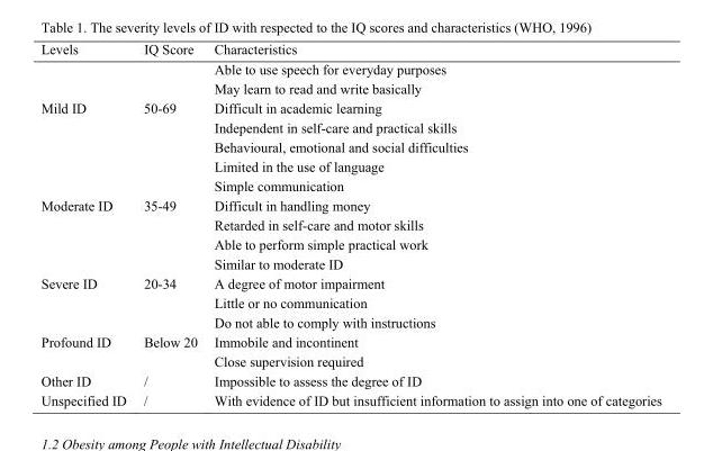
<table><thead><tr><td>Levels</td><td>IQ Score</td><td>Characteristics</td></tr></thead><tbody><tr><td>Mild ID</td><td>50-69</td><td>Able to use speech for everyday purposes May learn to read and write basically Difficult in academic learning Independent in self-care and practical skills Behavioural, emotional and social difficulties</td></tr><tr><td>Moderate ID</td><td>35-49</td><td>Limited in the use of language Simple communication Difficult in handling money Retarded in self-care and motor skills Able to perform simple practical work</td></tr><tr><td>Severe ID</td><td>20-34</td><td>Similar to moderate ID A degree of motor impairment Little or no communication</td></tr><tr><td>Profound ID</td><td>Below 20</td><td>Do not able to comply with instructions Immobile and incontinent Close supervision required</td></tr><tr><td>Other ID</td><td>/</td><td>Impossible to assess the degree of ID</td></tr><tr><td>Unspecified ID</td><td>/</td><td>With evidence of ID but insufficient information to assign into one of categories</td></tr></tbody></table>